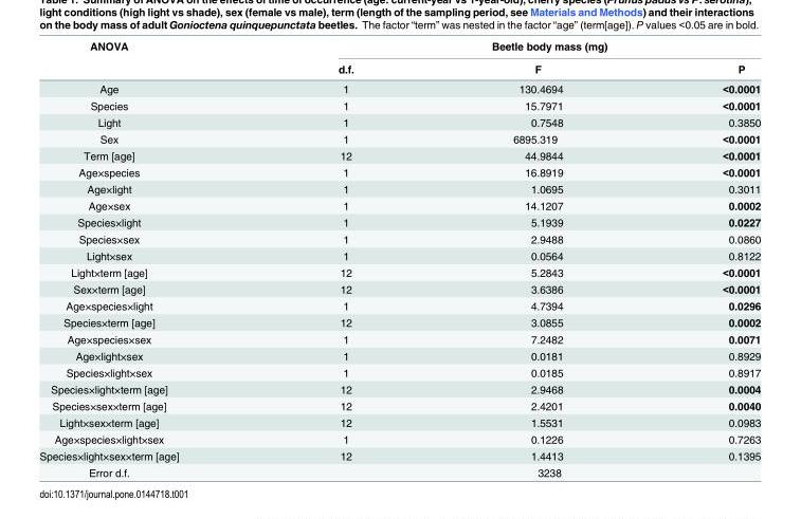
<table><thead><tr><td rowspan="2">ANOVA</td><td colspan="3">Beetle body mass (mg)</td></tr><tr><td>d.f.</td><td>F</td><td>P</td></tr></thead><tbody><tr><td>Age</td><td>1</td><td>130.4694</td><td>&lt;0.0001</td></tr><tr><td>Species</td><td>1</td><td>15.7971</td><td>&lt;0.0001</td></tr><tr><td>Light</td><td>1</td><td>0.7548</td><td>0.3850</td></tr><tr><td>Sex</td><td>1</td><td>6895.319</td><td>&lt;0.0001</td></tr><tr><td>Term [age]</td><td>12</td><td>44.9844</td><td>&lt;0.0001</td></tr><tr><td>Age×species</td><td>1</td><td>16.8919</td><td>&lt;0.0001</td></tr><tr><td>Age×light</td><td>1</td><td>1.0695</td><td>0.3011</td></tr><tr><td>Age×sex</td><td>1</td><td>14.1207</td><td>0.0002</td></tr><tr><td>Species×light</td><td>1</td><td>5.1939</td><td>0.0227</td></tr><tr><td>Species×sex</td><td>1</td><td>2.9488</td><td>0.0860</td></tr><tr><td>Light×sex</td><td>1</td><td>0.0564</td><td>0.8122</td></tr><tr><td>Light×term [age]</td><td>12</td><td>5.2843</td><td>&lt;0.0001</td></tr><tr><td>Sex×term [age]</td><td>12</td><td>3.6386</td><td>&lt;0.0001</td></tr><tr><td>Age×species×light</td><td>1</td><td>4.7394</td><td>0.0296</td></tr><tr><td>Species×term [age]</td><td>12</td><td>3.0855</td><td>0.0002</td></tr><tr><td>Age×species×sex</td><td>1</td><td>7.2482</td><td>0.0071</td></tr><tr><td>Age×light×sex</td><td>1</td><td>0.0181</td><td>0.8929</td></tr><tr><td>Species×light×sex</td><td>1</td><td>0.0185</td><td>0.8917</td></tr><tr><td>Species×light×term [age]</td><td>12</td><td>2.9468</td><td>0.0004</td></tr><tr><td>Species×sex×term [age]</td><td>12</td><td>2.4201</td><td>0.0040</td></tr><tr><td>Light×sex×term [age]</td><td>12</td><td>1.5531</td><td>0.0983</td></tr><tr><td>Age×species×light×sex</td><td>1</td><td>0.1226</td><td>0.7263</td></tr><tr><td>Species×light×sex×term [age]</td><td>12</td><td>1.4413</td><td>0.1395</td></tr><tr><td>Error d.f.</td><td colspan="3">3238</td></tr></tbody></table>